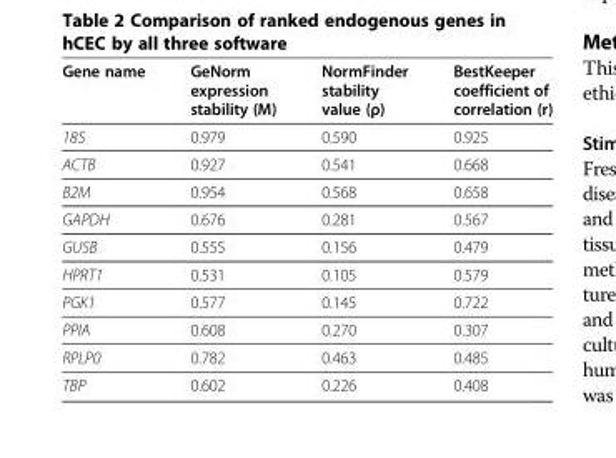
<table><thead><tr><td>Gene name</td><td>GeNorm expression stability (M)</td><td>NormFinder stability value (ρ)</td><td>BestKeeper coefficient of correlation (r)</td></tr></thead><tbody><tr><td>18S</td><td>0.979</td><td>0.590</td><td>0.925</td></tr><tr><td>ACTB</td><td>0.927</td><td>0.541</td><td>0.668</td></tr><tr><td>B2M</td><td>0.954</td><td>0.568</td><td>0.658</td></tr><tr><td>GAPDH</td><td>0.676</td><td>0.281</td><td>0.567</td></tr><tr><td>GUSB</td><td>0.555</td><td>0.156</td><td>0.479</td></tr><tr><td>HPRT1</td><td>0.531</td><td>0.105</td><td>0.579</td></tr><tr><td>PGK1</td><td>0.577</td><td>0.145</td><td>0.722</td></tr><tr><td>PPIA</td><td>0.608</td><td>0.270</td><td>0.307</td></tr><tr><td>RPLP0</td><td>0.782</td><td>0.463</td><td>0.485</td></tr><tr><td>TBP</td><td>0.602</td><td>0.226</td><td>0.408</td></tr></tbody></table>